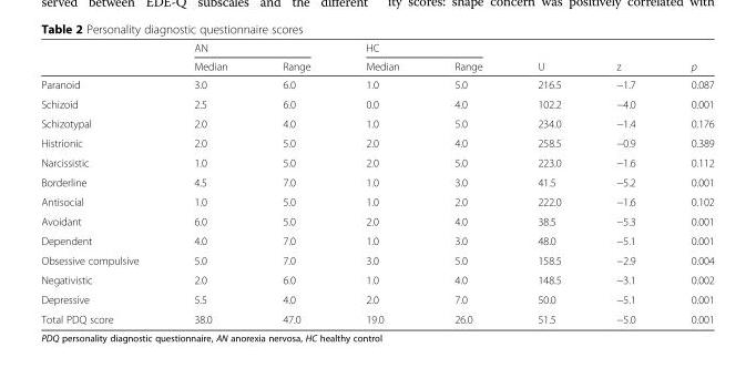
<table><thead><tr><td rowspan="2"></td><td colspan="2">AN</td><td colspan="2">HC</td><td rowspan="2">U</td><td rowspan="2">z</td><td rowspan="2">p</td></tr><tr><td>Median</td><td>Range</td><td>Median</td><td>Range</td></tr></thead><tbody><tr><td>Paranoid</td><td>3.0</td><td>6.0</td><td>1.0</td><td>5.0</td><td>216.5</td><td>−1.7</td><td>0.087</td></tr><tr><td>Schizoid</td><td>2.5</td><td>6.0</td><td>0.0</td><td>4.0</td><td>102.2</td><td>−4.0</td><td>0.001</td></tr><tr><td>Schizotypal</td><td>2.0</td><td>4.0</td><td>1.0</td><td>5.0</td><td>234.0</td><td>−1.4</td><td>0.176</td></tr><tr><td>Histrionic</td><td>2.0</td><td>5.0</td><td>2.0</td><td>4.0</td><td>258.5</td><td>−0.9</td><td>0.389</td></tr><tr><td>Narcissistic</td><td>1.0</td><td>5.0</td><td>2.0</td><td>5.0</td><td>223.0</td><td>−1.6</td><td>0.112</td></tr><tr><td>Borderline</td><td>4.5</td><td>7.0</td><td>1.0</td><td>3.0</td><td>41.5</td><td>−5.2</td><td>0.001</td></tr><tr><td>Antisocial</td><td>1.0</td><td>5.0</td><td>1.0</td><td>2.0</td><td>222.0</td><td>−1.6</td><td>0.102</td></tr><tr><td>Avoidant</td><td>6.0</td><td>5.0</td><td>2.0</td><td>4.0</td><td>38.5</td><td>−5.3</td><td>0.001</td></tr><tr><td>Dependent</td><td>4.0</td><td>7.0</td><td>1.0</td><td>3.0</td><td>48.0</td><td>−5.1</td><td>0.001</td></tr><tr><td>Obsessive compulsive</td><td>5.0</td><td>7.0</td><td>3.0</td><td>5.0</td><td>158.5</td><td>−2.9</td><td>0.004</td></tr><tr><td>Negativistic</td><td>2.0</td><td>6.0</td><td>1.0</td><td>4.0</td><td>148.5</td><td>−3.1</td><td>0.002</td></tr><tr><td>Depressive</td><td>5.5</td><td>4.0</td><td>2.0</td><td>7.0</td><td>50.0</td><td>−5.1</td><td>0.001</td></tr><tr><td>Total PDQ score</td><td>38.0</td><td>47.0</td><td>19.0</td><td>26.0</td><td>51.5</td><td>−5.0</td><td>0.001</td></tr></tbody></table>